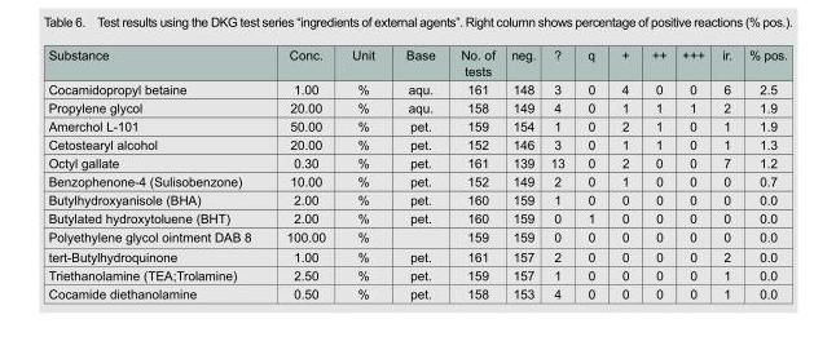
<table><thead><tr><td>Substance</td><td>Conc.</td><td>Unit</td><td>Base</td><td>No. of tests</td><td>neg.</td><td>?</td><td>q</td><td>+</td><td>++</td><td>+++</td><td>ir.</td><td>% pos.</td></tr></thead><tbody><tr><td>Cocamidopropyl betaine</td><td>1.00</td><td>%</td><td>aqu.</td><td>161</td><td>148</td><td>3</td><td>0</td><td>4</td><td>0</td><td>0</td><td>6</td><td>2.5</td></tr><tr><td>Propylene glycol</td><td>20.00</td><td>%</td><td>aqu.</td><td>158</td><td>149</td><td>4</td><td>0</td><td>1</td><td>1</td><td>1</td><td>2</td><td>1.9</td></tr><tr><td>Amerchol L-101</td><td>50.00</td><td>%</td><td>pet.</td><td>159</td><td>154</td><td>1</td><td>0</td><td>2</td><td>1</td><td>0</td><td>1</td><td>1.9</td></tr><tr><td>Cetostearyl alcohol</td><td>20.00</td><td>%</td><td>pet.</td><td>152</td><td>146</td><td>3</td><td>0</td><td>1</td><td>1</td><td>0</td><td>1</td><td>1.3</td></tr><tr><td>Octyl gallate</td><td>0.30</td><td>%</td><td>pet.</td><td>161</td><td>139</td><td>13</td><td>0</td><td>2</td><td>0</td><td>0</td><td>7</td><td>1.2</td></tr><tr><td>Benzophenone-4 (Sulisobenzone)</td><td>10.00</td><td>%</td><td>pet.</td><td>152</td><td>149</td><td>2</td><td>0</td><td>1</td><td>0</td><td>0</td><td>0</td><td>0.7</td></tr><tr><td>Butylhydroxyanisole (BHA)</td><td>2.00</td><td>%</td><td>pet.</td><td>160</td><td>159</td><td>1</td><td>0</td><td>0</td><td>0</td><td>0</td><td>0</td><td>0.0</td></tr><tr><td>Butylated hydroxytoluene (BHT)</td><td>2.00</td><td>%</td><td>pet.</td><td>160</td><td>159</td><td>0</td><td>1</td><td>0</td><td>0</td><td>0</td><td>0</td><td>0.0</td></tr><tr><td>Polyethylene glycol ointment DAB 8</td><td>100.00</td><td>%</td><td></td><td>159</td><td>159</td><td>0</td><td>0</td><td>0</td><td>0</td><td>0</td><td>0</td><td>0.0</td></tr><tr><td>tert-Butylhydroquinone</td><td>1.00</td><td>%</td><td>pet.</td><td>161</td><td>157</td><td>2</td><td>0</td><td>0</td><td>0</td><td>0</td><td>2</td><td>0.0</td></tr><tr><td>Triethanolamine (TEA;Trolamine)</td><td>2.50</td><td>%</td><td>pet.</td><td>159</td><td>157</td><td>1</td><td>0</td><td>0</td><td>0</td><td>0</td><td>1</td><td>0.0</td></tr><tr><td>Cocamide diethanolamine</td><td>0.50</td><td>%</td><td>pet.</td><td>158</td><td>153</td><td>4</td><td>0</td><td>0</td><td>0</td><td>0</td><td>1</td><td>0.0</td></tr></tbody></table>